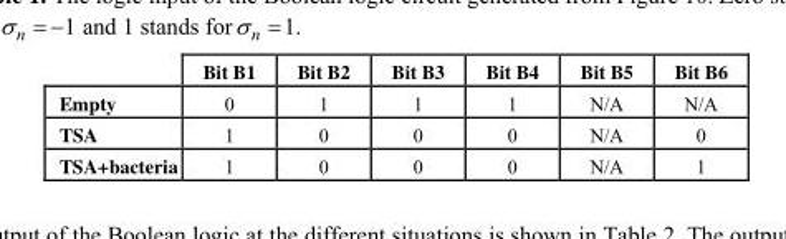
<table><thead><tr><td></td><td>Bit B1</td><td>Bit B2</td><td>Bit B3</td><td>Bit B4</td><td>Bit B5</td><td>Bit B6</td></tr></thead><tbody><tr><td>Empty</td><td>0</td><td>1</td><td>1</td><td>1</td><td>N/A</td><td>N/A</td></tr><tr><td>TSA</td><td>1</td><td>0</td><td>0</td><td>0</td><td>N/A</td><td>0</td></tr><tr><td>TSA+bacteria</td><td>1</td><td>0</td><td>0</td><td>0</td><td>N/A</td><td>1</td></tr></tbody></table>